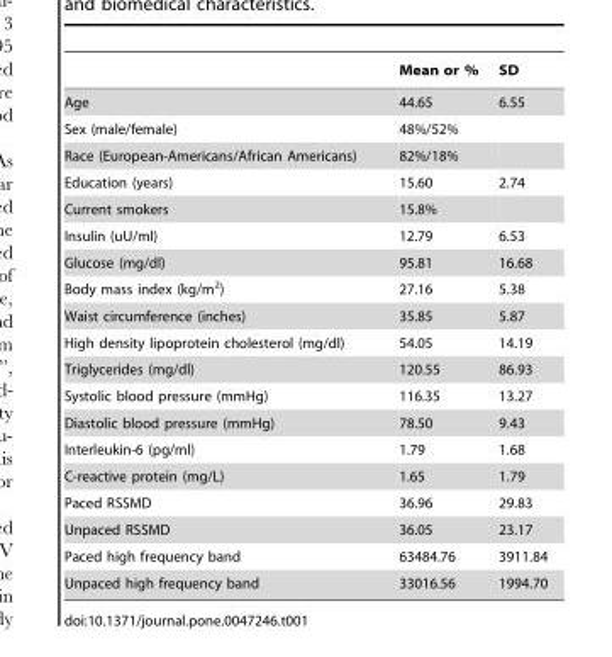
<table><thead><tr><td></td><td>Mean or %</td><td>SD</td></tr></thead><tbody><tr><td>Age</td><td>44.65</td><td>6.55</td></tr><tr><td>Sex (male/female)</td><td>48%/52%</td><td></td></tr><tr><td>Race (European-Americans/African Americans)</td><td>82%/18%</td><td></td></tr><tr><td>Education (years)</td><td>15.60</td><td>2.74</td></tr><tr><td>Current smokers</td><td>15.8%</td><td></td></tr><tr><td>Insulin (uU/ml)</td><td>12.79</td><td>6.53</td></tr><tr><td>Glucose (mg/dl)</td><td>95.81</td><td>16.68</td></tr><tr><td>Body mass index (kg/m<sup>2</sup>)</td><td>27.16</td><td>5.38</td></tr><tr><td>Waist circumference (inches)</td><td>35.85</td><td>5.87</td></tr><tr><td>High density lipoprotein cholesterol (mg/dl)</td><td>54.05</td><td>14.19</td></tr><tr><td>Triglycerides (mg/dl)</td><td>120.55</td><td>86.93</td></tr><tr><td>Systolic blood pressure (mmHg)</td><td>116.35</td><td>13.27</td></tr><tr><td>Diastolic blood pressure (mmHg)</td><td>78.50</td><td>9.43</td></tr><tr><td>Interleukin-6 (pg/ml)</td><td>1.79</td><td>1.68</td></tr><tr><td>C-reactive protein (mg/L)</td><td>1.65</td><td>1.79</td></tr><tr><td>Paced RSSMD</td><td>36.96</td><td>29.83</td></tr><tr><td>Unpaced RSSMD</td><td>36.05</td><td>23.17</td></tr><tr><td>Paced high frequency band</td><td>63484.76</td><td>3911.84</td></tr><tr><td>Unpaced high frequency band</td><td>33016.56</td><td>1994.70</td></tr></tbody></table>